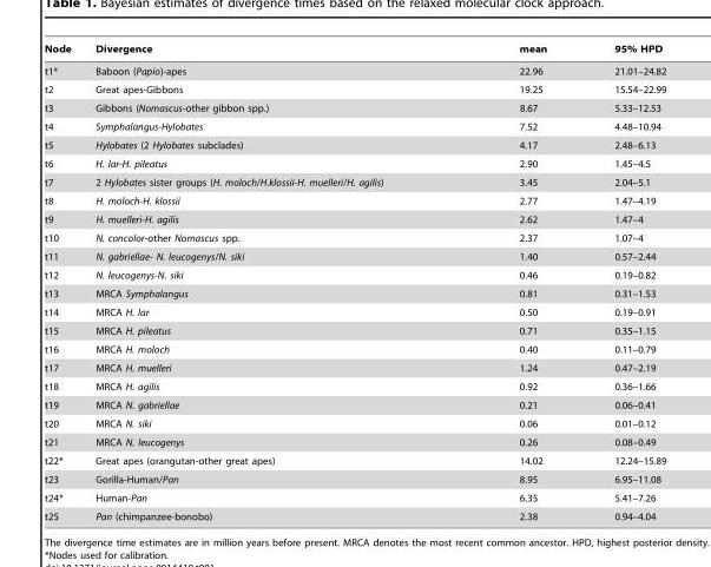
<table><thead><tr><td>Node</td><td>Divergence</td><td>mean</td><td>95% HPD</td></tr></thead><tbody><tr><td>t1*</td><td>Baboon (Papio)-apes</td><td>22.96</td><td>21.01–24.82</td></tr><tr><td>t2</td><td>Great apes-Gibbons</td><td>19.25</td><td>15.54–22.99</td></tr><tr><td>t3</td><td>Gibbons (Nomascus-other gibbon spp.)</td><td>8.67</td><td>5.33–12.53</td></tr><tr><td>t4</td><td>Symphalangus-Hylobates</td><td>7.52</td><td>4.48–10.94</td></tr><tr><td>t5</td><td>Hylobates (2 Hylobates subclades)</td><td>4.17</td><td>2.48–6.13</td></tr><tr><td>t6</td><td>H. lar-H. pileatus</td><td>2.90</td><td>1.45–4.5</td></tr><tr><td>t7</td><td>2 Hylobates sister groups (H. moloch/H.klossii-H. muelleri/H. agilis)</td><td>3.45</td><td>2.04–5.1</td></tr><tr><td>t8</td><td>H. moloch-H. klossii</td><td>2.77</td><td>1.47–4.19</td></tr><tr><td>t9</td><td>H. muelleri-H. agilis</td><td>2.62</td><td>1.47–4</td></tr><tr><td>t10</td><td>N. concolor-other Nomascus spp.</td><td>2.37</td><td>1.07–4</td></tr><tr><td>t11</td><td>N. gabriellae- N. leucogenys/N. siki</td><td>1.40</td><td>0.57–2.44</td></tr><tr><td>t12</td><td>N. leucogenys-N. siki</td><td>0.46</td><td>0.19–0.82</td></tr><tr><td>t13</td><td>MRCA Symphalangus</td><td>0.81</td><td>0.31–1.53</td></tr><tr><td>t14</td><td>MRCA H. lar</td><td>0.50</td><td>0.19–0.91</td></tr><tr><td>t15</td><td>MRCA H. pileatus</td><td>0.71</td><td>0.35–1.15</td></tr><tr><td>t16</td><td>MRCA H. moloch</td><td>0.40</td><td>0.11–0.79</td></tr><tr><td>t17</td><td>MRCA H. muelleri</td><td>1.24</td><td>0.47–2.19</td></tr><tr><td>t18</td><td>MRCA H. agilis</td><td>0.92</td><td>0.36–1.66</td></tr><tr><td>t19</td><td>MRCA N. gabriellae</td><td>0.21</td><td>0.06–0.41</td></tr><tr><td>t20</td><td>MRCA N. siki</td><td>0.06</td><td>0.01–0.12</td></tr><tr><td>t21</td><td>MRCA N. leucogenys</td><td>0.26</td><td>0.08–0.49</td></tr><tr><td>t22*</td><td>Great apes (orangutan-other great apes)</td><td>14.02</td><td>12.24–15.89</td></tr><tr><td>t23</td><td>Gorilla-Human/Pan</td><td>8.95</td><td>6.95–11.08</td></tr><tr><td>t24*</td><td>Human-Pan</td><td>6.35</td><td>5.41–7.26</td></tr><tr><td>t25</td><td>Pan (chimpanzee-bonobo)</td><td>2.38</td><td>0.94–4.04</td></tr></tbody></table>